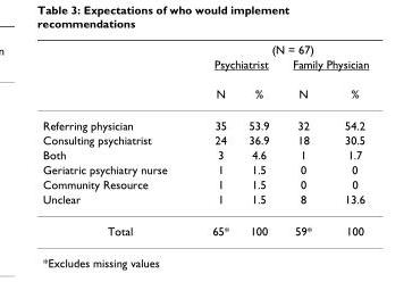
<table><thead><tr><td rowspan="3"></td><td colspan="4">(N = 67)</td></tr><tr><td colspan="2">Psychiatrist</td><td colspan="2">Family Physician</td></tr><tr><td>N</td><td>%</td><td>N</td><td>%</td></tr></thead><tbody><tr><td>Referring physician</td><td>35</td><td>53.9</td><td>32</td><td>54.2</td></tr><tr><td>Consulting psychiatrist</td><td>24</td><td>36.9</td><td>18</td><td>30.5</td></tr><tr><td>Both</td><td>3</td><td>4.6</td><td>1</td><td>1.7</td></tr><tr><td>Geriatric psychiatry nurse</td><td>1</td><td>1.5</td><td>0</td><td>0</td></tr><tr><td>Community Resource</td><td>1</td><td>1.5</td><td>0</td><td>0</td></tr><tr><td>Unclear</td><td>1</td><td>1.5</td><td>8</td><td>13.6</td></tr><tr><td>Total</td><td>65*</td><td>100</td><td>59*</td><td>100</td></tr></tbody></table>